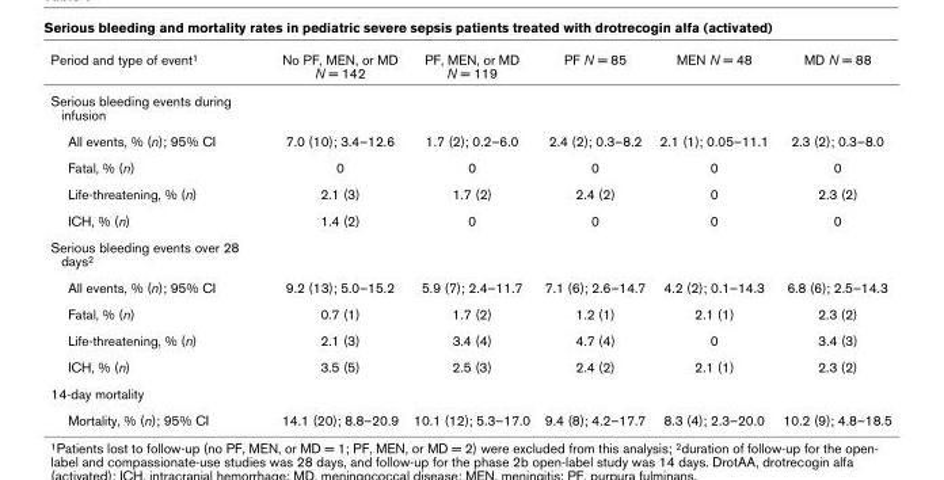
<table><thead><tr><td>Period and type of event1</td><td>No PF, MEN, or MD N = 142</td><td>PF, MEN, or MD N = 119</td><td>PF N = 85</td><td>MEN N = 48</td><td>MD N = 88</td></tr></thead><tbody><tr><td colspan="6">Serious bleeding events during infusion</td></tr><tr><td>All events, % (n); 95% CI</td><td>7.0 (10); 3.4–12.6</td><td>1.7 (2); 0.2–6.0</td><td>2.4 (2); 0.3–8.2</td><td>2.1 (1); 0.05–11.1</td><td>2.3 (2); 0.3–8.0</td></tr><tr><td>Fatal, % (n)</td><td>0</td><td>0</td><td>0</td><td>0</td><td>0</td></tr><tr><td>Life-threatening, % (n)</td><td>2.1 (3)</td><td>1.7 (2)</td><td>2.4 (2)</td><td>0</td><td>2.3 (2)</td></tr><tr><td>ICH, % (n)</td><td>1.4 (2)</td><td>0</td><td>0</td><td>0</td><td>0</td></tr><tr><td colspan="6">Serious bleeding events over 28 days2</td></tr><tr><td>All events, % (n); 95% CI</td><td>9.2 (13); 5.0–15.2</td><td>5.9 (7); 2.4–11.7</td><td>7.1 (6); 2.6–14.7</td><td>4.2 (2); 0.1–14.3</td><td>6.8 (6); 2.5–14.3</td></tr><tr><td>Fatal, % (n)</td><td>0.7 (1)</td><td>1.7 (2)</td><td>1.2 (1)</td><td>2.1 (1)</td><td>2.3 (2)</td></tr><tr><td>Life-threatening, % (n)</td><td>2.1 (3)</td><td>3.4 (4)</td><td>4.7 (4)</td><td>0</td><td>3.4 (3)</td></tr><tr><td>ICH, % (n)</td><td>3.5 (5)</td><td>2.5 (3)</td><td>2.4 (2)</td><td>2.1 (1)</td><td>2.3 (2)</td></tr><tr><td colspan="6">14-day mortality</td></tr><tr><td>Mortality, % (n); 95% CI</td><td>14.1 (20); 8.8–20.9</td><td>10.1 (12); 5.3–17.0</td><td>9.4 (8); 4.2–17.7</td><td>8.3 (4); 2.3–20.0</td><td>10.2 (9); 4.8–18.5</td></tr></tbody></table>